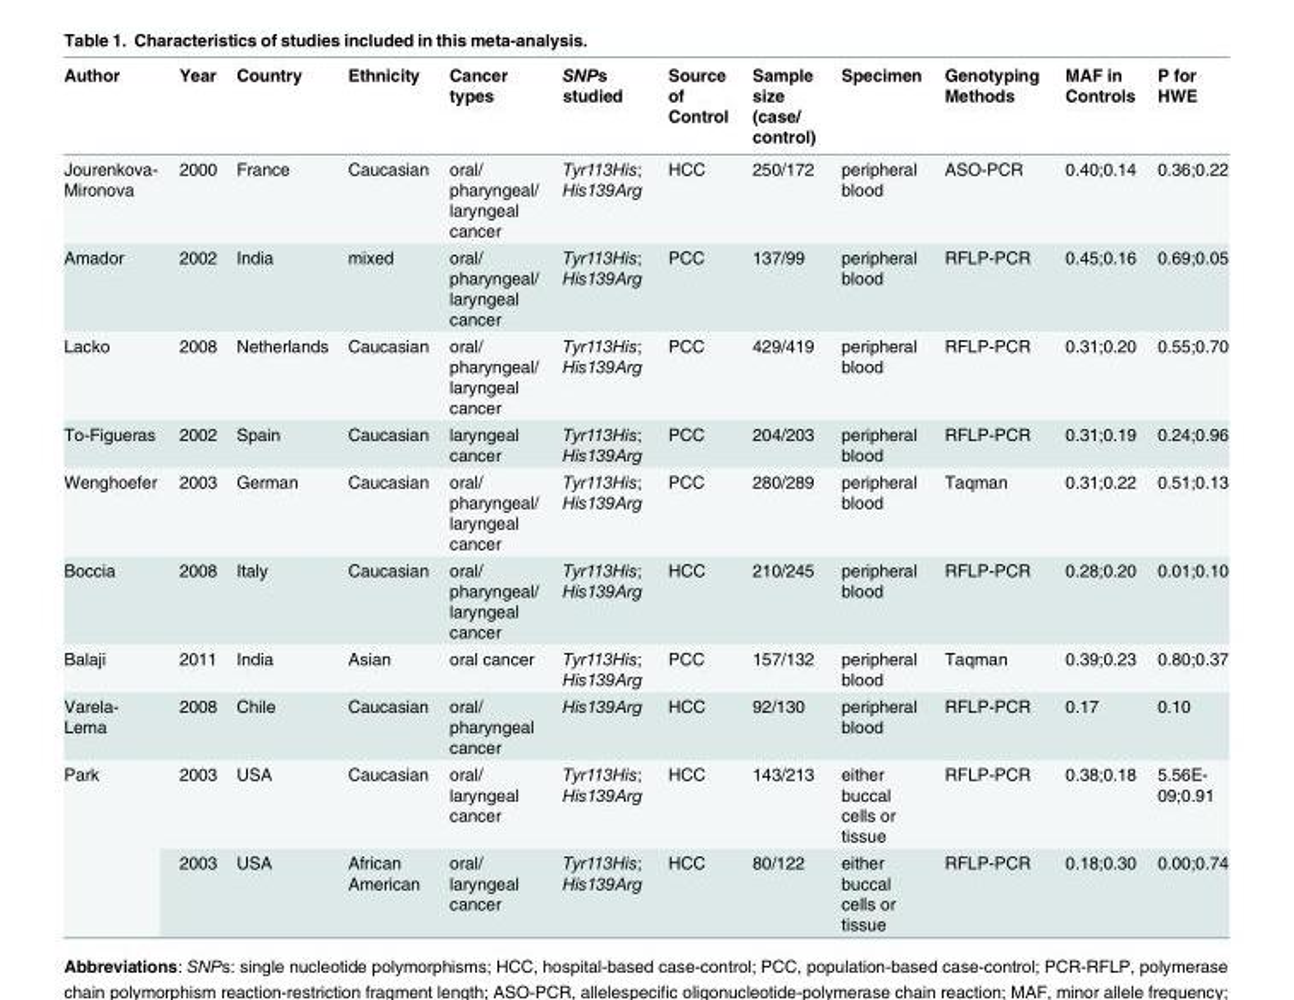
<table><thead><tr><td>Author</td><td>Year</td><td>Country</td><td>Ethnicity</td><td>Cancer types</td><td>SNPs studied</td><td>Source of Control</td><td>Sample size (case/ control)</td><td>Specimen</td><td>Genotyping Methods</td><td>MAF in Controls</td><td>P for HWE</td></tr></thead><tbody><tr><td>Jourenkova- Mironova</td><td>2000</td><td>France</td><td>Caucasian</td><td>oral/ pharyngeal/ laryngeal cancer</td><td>Tyr113His; His139Arg</td><td>HCC</td><td>250/172</td><td>peripheral blood</td><td>ASO-PCR</td><td>0.40;0.14</td><td>0.36;0.22</td></tr><tr><td>Amador</td><td>2002</td><td>India</td><td>mixed</td><td>oral/ pharyngeal/ laryngeal cancer</td><td>Tyr113His; His139Arg</td><td>PCC</td><td>137/99</td><td>peripheral blood</td><td>RFLP-PCR</td><td>0.45;0.16</td><td>0.69;0.05</td></tr><tr><td>Lacko</td><td>2008</td><td>Netherlands</td><td>Caucasian</td><td>oral/ pharyngeal/ laryngeal cancer</td><td>Tyr113His; His139Arg</td><td>PCC</td><td>429/419</td><td>peripheral blood</td><td>RFLP-PCR</td><td>0.31;0.20</td><td>0.55;0.70</td></tr><tr><td>To-Figueras</td><td>2002</td><td>Spain</td><td>Caucasian</td><td>laryngeal cancer</td><td>Tyr113His; His139Arg</td><td>PCC</td><td>204/203</td><td>peripheral blood</td><td>RFLP-PCR</td><td>0.31;0.19</td><td>0.24;0.96</td></tr><tr><td>Wenghoefer</td><td>2003</td><td>German</td><td>Caucasian</td><td>oral/ pharyngeal/ laryngeal cancer</td><td>Tyr113His; His139Arg</td><td>PCC</td><td>280/289</td><td>peripheral blood</td><td>Taqman</td><td>0.31;0.22</td><td>0.51;0.13</td></tr><tr><td>Boccia</td><td>2008</td><td>Italy</td><td>Caucasian</td><td>oral/ pharyngeal/ laryngeal cancer</td><td>Tyr113His; His139Arg</td><td>HCC</td><td>210/245</td><td>peripheral blood</td><td>RFLP-PCR</td><td>0.28;0.20</td><td>0.01;0.10</td></tr><tr><td>Balaji</td><td>2011</td><td>India</td><td>Asian</td><td>oral cancer</td><td>Tyr113His; His139Arg</td><td>PCC</td><td>157/132</td><td>peripheral blood</td><td>Taqman</td><td>0.39;0.23</td><td>0.80;0.37</td></tr><tr><td>Varela- Lema</td><td>2008</td><td>Chile</td><td>Caucasian</td><td>oral/ pharyngeal cancer</td><td>His139Arg</td><td>HCC</td><td>92/130</td><td>peripheral blood</td><td>RFLP-PCR</td><td>0.17</td><td>0.10</td></tr><tr><td rowspan="2">Park</td><td>2003</td><td>USA</td><td>Caucasian</td><td>oral/ laryngeal cancer</td><td>Tyr113His; His139Arg</td><td>HCC</td><td>143/213</td><td>either buccal cells or tissue</td><td>RFLP-PCR</td><td>0.38;0.18</td><td>5.56E- 09;0.91</td></tr><tr><td>2003</td><td>USA</td><td>African American</td><td>oral/ laryngeal cancer</td><td>Tyr113His; His139Arg</td><td>HCC</td><td>80/122</td><td>either buccal cells or tissue</td><td>RFLP-PCR</td><td>0.18;0.30</td><td>0.00;0.74</td></tr></tbody></table>